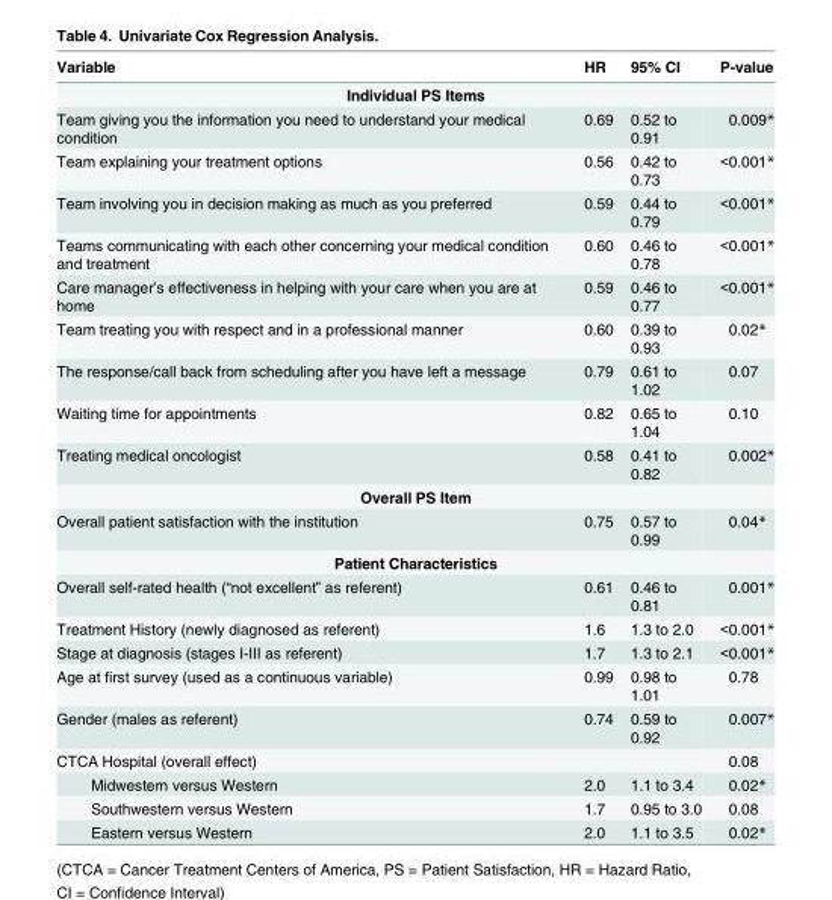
<table><thead><tr><td>Variable</td><td>HR</td><td>95% CI</td><td>P-value</td></tr></thead><tbody><tr><td colspan="4">Individual PS Items</td></tr><tr><td>Team giving you the information you need to understand your medical condition</td><td>0.69</td><td>0.52 to 0.91</td><td>0.009*</td></tr><tr><td>Team explaining your treatment options</td><td>0.56</td><td>0.42 to 0.73</td><td>&lt;0.001*</td></tr><tr><td>Team involving you in decision making as much as you preferred</td><td>0.59</td><td>0.44 to 0.79</td><td>&lt;0.001*</td></tr><tr><td>Teams communicating with each other concerning your medical condition and treatment</td><td>0.60</td><td>0.46 to 0.78</td><td>&lt;0.001*</td></tr><tr><td>Care manager’s effectiveness in helping with your care when you are at home</td><td>0.59</td><td>0.46 to 0.77</td><td>&lt;0.001*</td></tr><tr><td>Team treating you with respect and in a professional manner</td><td>0.60</td><td>0.39 to 0.93</td><td>0.02*</td></tr><tr><td>The response/call back from scheduling after you have left a message</td><td>0.79</td><td>0.61 to 1.02</td><td>0.07</td></tr><tr><td>Waiting time for appointments</td><td>0.82</td><td>0.65 to 1.04</td><td>0.10</td></tr><tr><td>Treating medical oncologist</td><td>0.58</td><td>0.41 to 0.82</td><td>0.002*</td></tr><tr><td colspan="4">Overall PS Item</td></tr><tr><td>Overall patient satisfaction with the institution</td><td>0.75</td><td>0.57 to 0.99</td><td>0.04*</td></tr><tr><td colspan="4">Patient Characteristics</td></tr><tr><td>Overall self-rated health (“not excellent” as referent)</td><td>0.61</td><td>0.46 to 0.81</td><td>0.001*</td></tr><tr><td>Treatment History (newly diagnosed as referent)</td><td>1.6</td><td>1.3 to 2.0</td><td>&lt;0.001*</td></tr><tr><td>Stage at diagnosis (stages I-III as referent)</td><td>1.7</td><td>1.3 to 2.1</td><td>&lt;0.001*</td></tr><tr><td>Age at first survey (used as a continuous variable)</td><td>0.99</td><td>0.98 to 1.01</td><td>0.78</td></tr><tr><td>Gender (males as referent)</td><td>0.74</td><td>0.59 to 0.92</td><td>0.007*</td></tr><tr><td>CTCA Hospital (overall effect)</td><td></td><td></td><td>0.08</td></tr><tr><td>Midwestern versus Western</td><td>2.0</td><td>1.1 to 3.4</td><td>0.02*</td></tr><tr><td>Southwestern versus Western</td><td>1.7</td><td>0.95 to 3.0</td><td>0.08</td></tr><tr><td>Eastern versus Western</td><td>2.0</td><td>1.1 to 3.5</td><td>0.02*</td></tr></tbody></table>